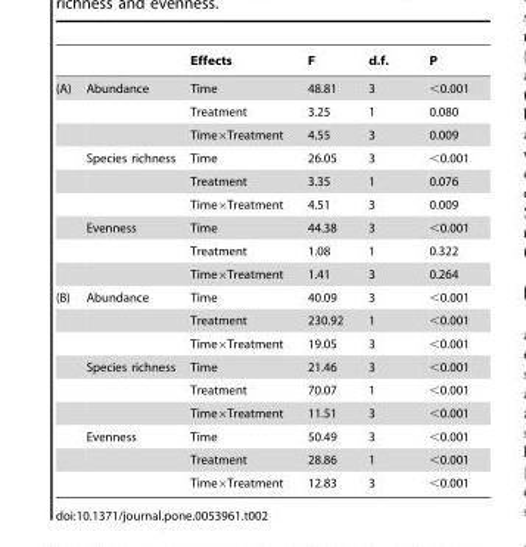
<table><thead><tr><td></td><td></td><td>Effects</td><td>F</td><td>d.f.</td><td>P</td></tr></thead><tbody><tr><td rowspan="9">(A)</td><td>Abundance</td><td>Time</td><td>48.81</td><td>3</td><td>&lt;0.001</td></tr><tr><td></td><td>Treatment</td><td>3.25</td><td>1</td><td>0.080</td></tr><tr><td></td><td>Time×Treatment</td><td>4.55</td><td>3</td><td>0.009</td></tr><tr><td>Species richness</td><td>Time</td><td>26.05</td><td>3</td><td>&lt;0.001</td></tr><tr><td></td><td>Treatment</td><td>3.35</td><td>1</td><td>0.076</td></tr><tr><td></td><td>Time×Treatment</td><td>4.51</td><td>3</td><td>0.009</td></tr><tr><td>Evenness</td><td>Time</td><td>44.38</td><td>3</td><td>&lt;0.001</td></tr><tr><td></td><td>Treatment</td><td>1.08</td><td>1</td><td>0.322</td></tr><tr><td></td><td>Time×Treatment</td><td>1.41</td><td>3</td><td>0.264</td></tr><tr><td rowspan="9">(B)</td><td>Abundance</td><td>Time</td><td>40.09</td><td>3</td><td>&lt;0.001</td></tr><tr><td></td><td>Treatment</td><td>230.92</td><td>1</td><td>&lt;0.001</td></tr><tr><td></td><td>Time×Treatment</td><td>19.05</td><td>3</td><td>&lt;0.001</td></tr><tr><td>Species richness</td><td>Time</td><td>21.46</td><td>3</td><td>&lt;0.001</td></tr><tr><td></td><td>Treatment</td><td>70.07</td><td>1</td><td>&lt;0.001</td></tr><tr><td></td><td>Time×Treatment</td><td>11.51</td><td>3</td><td>&lt;0.001</td></tr><tr><td>Evenness</td><td>Time</td><td>50.49</td><td>3</td><td>&lt;0.001</td></tr><tr><td></td><td>Treatment</td><td>28.86</td><td>1</td><td>&lt;0.001</td></tr><tr><td></td><td>Time×Treatment</td><td>12.83</td><td>3</td><td>&lt;0.001</td></tr></tbody></table>